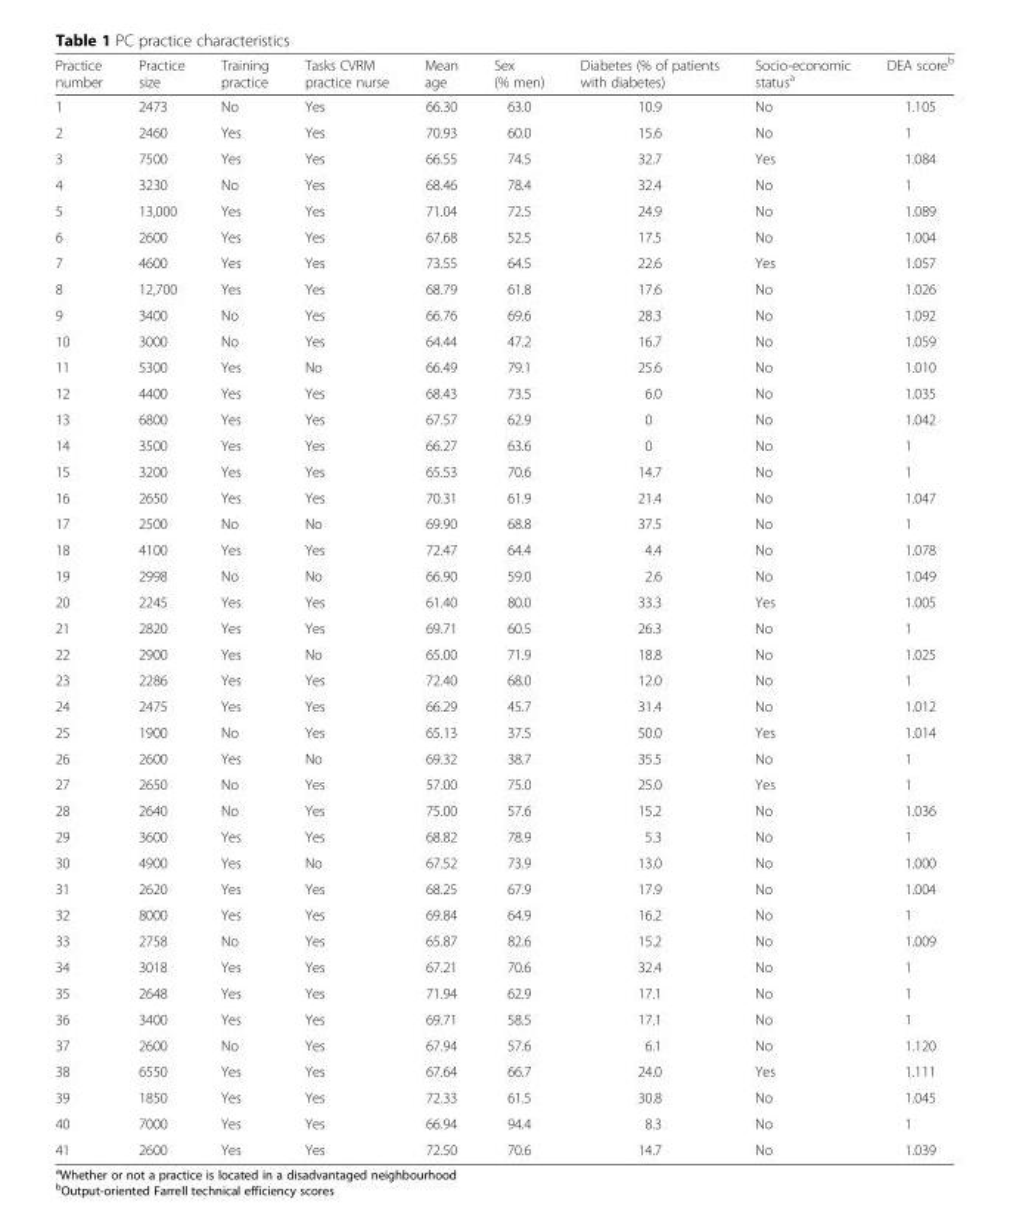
<table><thead><tr><td>Practice number</td><td>Practice size</td><td>Training practice</td><td>Tasks CVRM practice nurse</td><td>Mean age</td><td>Sex (% men)</td><td>Diabetes (% of patients with diabetes)</td><td>Socio-economic status<sup>a</sup></td><td>DEA score<sup>b</sup></td></tr></thead><tbody><tr><td>1</td><td>2473</td><td>No</td><td>Yes</td><td>66.30</td><td>63.0</td><td>10.9</td><td>No</td><td>1.105</td></tr><tr><td>2</td><td>2460</td><td>Yes</td><td>Yes</td><td>70.93</td><td>60.0</td><td>15.6</td><td>No</td><td>1</td></tr><tr><td>3</td><td>7500</td><td>Yes</td><td>Yes</td><td>66.55</td><td>74.5</td><td>32.7</td><td>Yes</td><td>1.084</td></tr><tr><td>4</td><td>3230</td><td>No</td><td>Yes</td><td>68.46</td><td>78.4</td><td>32.4</td><td>No</td><td>1</td></tr><tr><td>5</td><td>13,000</td><td>Yes</td><td>Yes</td><td>71.04</td><td>72.5</td><td>24.9</td><td>No</td><td>1.089</td></tr><tr><td>6</td><td>2600</td><td>Yes</td><td>Yes</td><td>67.68</td><td>52.5</td><td>17.5</td><td>No</td><td>1.004</td></tr><tr><td>7</td><td>4600</td><td>Yes</td><td>Yes</td><td>73.55</td><td>64.5</td><td>22.6</td><td>Yes</td><td>1.057</td></tr><tr><td>8</td><td>12,700</td><td>Yes</td><td>Yes</td><td>68.79</td><td>61.8</td><td>17.6</td><td>No</td><td>1.026</td></tr><tr><td>9</td><td>3400</td><td>No</td><td>Yes</td><td>66.76</td><td>69.6</td><td>28.3</td><td>No</td><td>1.092</td></tr><tr><td>10</td><td>3000</td><td>No</td><td>Yes</td><td>64.44</td><td>47.2</td><td>16.7</td><td>No</td><td>1.059</td></tr><tr><td>11</td><td>5300</td><td>Yes</td><td>No</td><td>66.49</td><td>79.1</td><td>25.6</td><td>No</td><td>1.010</td></tr><tr><td>12</td><td>4400</td><td>Yes</td><td>Yes</td><td>68.43</td><td>73.5</td><td>6.0</td><td>No</td><td>1.035</td></tr><tr><td>13</td><td>6800</td><td>Yes</td><td>Yes</td><td>67.57</td><td>62.9</td><td>0</td><td>No</td><td>1.042</td></tr><tr><td>14</td><td>3500</td><td>Yes</td><td>Yes</td><td>66.27</td><td>63.6</td><td>0</td><td>No</td><td>1</td></tr><tr><td>15</td><td>3200</td><td>Yes</td><td>Yes</td><td>65.53</td><td>70.6</td><td>14.7</td><td>No</td><td>1</td></tr><tr><td>16</td><td>2650</td><td>Yes</td><td>Yes</td><td>70.31</td><td>61.9</td><td>21.4</td><td>No</td><td>1.047</td></tr><tr><td>17</td><td>2500</td><td>No</td><td>No</td><td>69.90</td><td>68.8</td><td>37.5</td><td>No</td><td>1</td></tr><tr><td>18</td><td>4100</td><td>Yes</td><td>Yes</td><td>72.47</td><td>64.4</td><td>4.4</td><td>No</td><td>1.078</td></tr><tr><td>19</td><td>2998</td><td>No</td><td>No</td><td>66.90</td><td>59.0</td><td>2.6</td><td>No</td><td>1.049</td></tr><tr><td>20</td><td>2245</td><td>Yes</td><td>Yes</td><td>61.40</td><td>80.0</td><td>33.3</td><td>Yes</td><td>1.005</td></tr><tr><td>21</td><td>2820</td><td>Yes</td><td>Yes</td><td>69.71</td><td>60.5</td><td>26.3</td><td>No</td><td>1</td></tr><tr><td>22</td><td>2900</td><td>Yes</td><td>No</td><td>65.00</td><td>71.9</td><td>18.8</td><td>No</td><td>1.025</td></tr><tr><td>23</td><td>2286</td><td>Yes</td><td>Yes</td><td>72.40</td><td>68.0</td><td>12.0</td><td>No</td><td>1</td></tr><tr><td>24</td><td>2475</td><td>Yes</td><td>Yes</td><td>66.29</td><td>45.7</td><td>31.4</td><td>No</td><td>1.012</td></tr><tr><td>25</td><td>1900</td><td>No</td><td>Yes</td><td>65.13</td><td>37.5</td><td>50.0</td><td>Yes</td><td>1.014</td></tr><tr><td>26</td><td>2600</td><td>Yes</td><td>No</td><td>69.32</td><td>38.7</td><td>35.5</td><td>No</td><td>1</td></tr><tr><td>27</td><td>2650</td><td>No</td><td>Yes</td><td>57.00</td><td>75.0</td><td>25.0</td><td>Yes</td><td>1</td></tr><tr><td>28</td><td>2640</td><td>No</td><td>Yes</td><td>75.00</td><td>57.6</td><td>15.2</td><td>No</td><td>1.036</td></tr><tr><td>29</td><td>3600</td><td>Yes</td><td>Yes</td><td>68.82</td><td>78.9</td><td>5.3</td><td>No</td><td>1</td></tr><tr><td>30</td><td>4900</td><td>Yes</td><td>No</td><td>67.52</td><td>73.9</td><td>13.0</td><td>No</td><td>1.000</td></tr><tr><td>31</td><td>2620</td><td>Yes</td><td>Yes</td><td>68.25</td><td>67.9</td><td>17.9</td><td>No</td><td>1.004</td></tr><tr><td>32</td><td>8000</td><td>Yes</td><td>Yes</td><td>69.84</td><td>64.9</td><td>16.2</td><td>No</td><td>1</td></tr><tr><td>33</td><td>2758</td><td>No</td><td>Yes</td><td>65.87</td><td>82.6</td><td>15.2</td><td>No</td><td>1.009</td></tr><tr><td>34</td><td>3018</td><td>Yes</td><td>Yes</td><td>67.21</td><td>70.6</td><td>32.4</td><td>No</td><td>1</td></tr><tr><td>35</td><td>2648</td><td>Yes</td><td>Yes</td><td>71.94</td><td>62.9</td><td>17.1</td><td>No</td><td>1</td></tr><tr><td>36</td><td>3400</td><td>Yes</td><td>Yes</td><td>69.71</td><td>58.5</td><td>17.1</td><td>No</td><td>1</td></tr><tr><td>37</td><td>2600</td><td>No</td><td>Yes</td><td>67.94</td><td>57.6</td><td>6.1</td><td>No</td><td>1.120</td></tr><tr><td>38</td><td>6550</td><td>Yes</td><td>Yes</td><td>67.64</td><td>66.7</td><td>24.0</td><td>Yes</td><td>1.111</td></tr><tr><td>39</td><td>1850</td><td>Yes</td><td>Yes</td><td>72.33</td><td>61.5</td><td>30.8</td><td>No</td><td>1.045</td></tr><tr><td>40</td><td>7000</td><td>Yes</td><td>Yes</td><td>66.94</td><td>94.4</td><td>8.3</td><td>No</td><td>1</td></tr><tr><td>41</td><td>2600</td><td>Yes</td><td>Yes</td><td>72.50</td><td>70.6</td><td>14.7</td><td>No</td><td>1.039</td></tr></tbody></table>